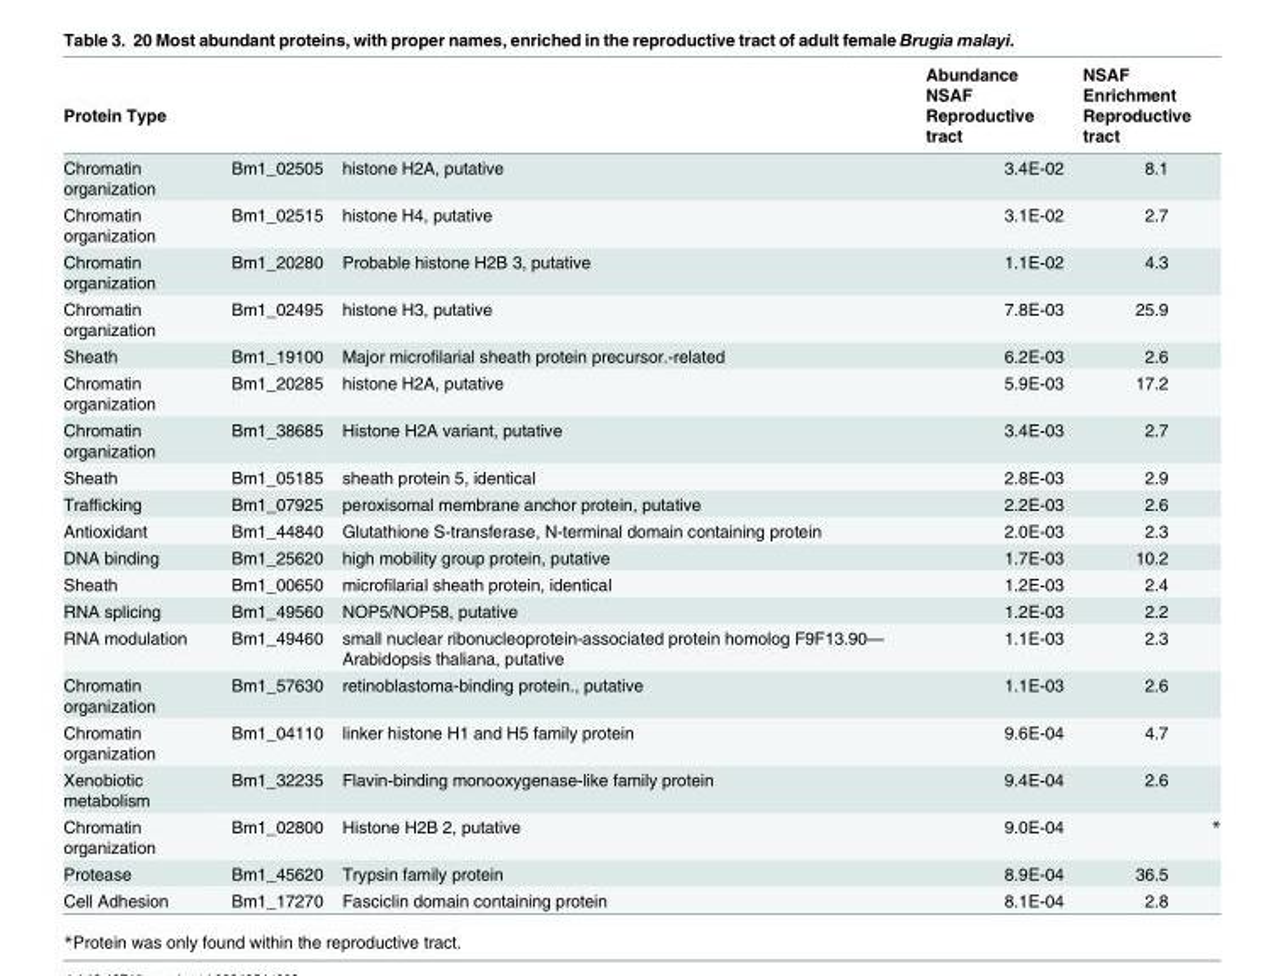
<table><thead><tr><td rowspan="2">Protein Type</td><td rowspan="2"></td><td rowspan="2"></td><td rowspan="2">Abundance NSAF Reproductive tract</td><td rowspan="2">NSAF Enrichment Reproductive tract</td></tr><tr></tr></thead><tbody><tr><td>Chromatin organization</td><td>Bm1_02505</td><td>histone H2A, putative</td><td>3.4E-02</td><td>8.1</td></tr><tr><td>Chromatin organization</td><td>Bm1_02515</td><td>histone H4, putative</td><td>3.1E-02</td><td>2.7</td></tr><tr><td>Chromatin organization</td><td>Bm1_20280</td><td>Probable histone H2B 3, putative</td><td>1.1E-02</td><td>4.3</td></tr><tr><td>Chromatin organization</td><td>Bm1_02495</td><td>histone H3, putative</td><td>7.8E-03</td><td>25.9</td></tr><tr><td>Sheath</td><td>Bm1_19100</td><td>Major microfilarial sheath protein precursor.-related</td><td>6.2E-03</td><td>2.6</td></tr><tr><td>Chromatin organization</td><td>Bm1_20285</td><td>histone H2A, putative</td><td>5.9E-03</td><td>17.2</td></tr><tr><td>Chromatin organization</td><td>Bm1_38685</td><td>Histone H2A variant, putative</td><td>3.4E-03</td><td>2.7</td></tr><tr><td>Sheath</td><td>Bm1_05185</td><td>sheath protein 5, identical</td><td>2.8E-03</td><td>2.9</td></tr><tr><td>Trafficking</td><td>Bm1_07925</td><td>peroxisomal membrane anchor protein, putative</td><td>2.2E-03</td><td>2.6</td></tr><tr><td>Antioxidant</td><td>Bm1_44840</td><td>Glutathione S-transferase, N-terminal domain containing protein</td><td>2.0E-03</td><td>2.3</td></tr><tr><td>DNA binding</td><td>Bm1_25620</td><td>high mobility group protein, putative</td><td>1.7E-03</td><td>10.2</td></tr><tr><td>Sheath</td><td>Bm1_00650</td><td>microfilarial sheath protein, identical</td><td>1.2E-03</td><td>2.4</td></tr><tr><td>RNA splicing</td><td>Bm1_49560</td><td>NOP5/NOP58, putative</td><td>1.2E-03</td><td>2.2</td></tr><tr><td>RNA modulation</td><td>Bm1_49460</td><td>small nuclear ribonucleoprotein-associated protein homolog F9F13.90— Arabidopsis thaliana, putative</td><td>1.1E-03</td><td>2.3</td></tr><tr><td>Chromatin organization</td><td>Bm1_57630</td><td>retinoblastoma-binding protein., putative</td><td>1.1E-03</td><td>2.6</td></tr><tr><td>Chromatin organization</td><td>Bm1_04110</td><td>linker histone H1 and H5 family protein</td><td>9.6E-04</td><td>4.7</td></tr><tr><td>Xenobiotic metabolism</td><td>Bm1_32235</td><td>Flavin-binding monooxygenase-like family protein</td><td>9.4E-04</td><td>2.6</td></tr><tr><td>Chromatin organization</td><td>Bm1_02800</td><td>Histone H2B 2, putative</td><td>9.0E-04</td><td>*</td></tr><tr><td>Protease</td><td>Bm1_45620</td><td>Trypsin family protein</td><td>8.9E-04</td><td>36.5</td></tr><tr><td>Cell Adhesion</td><td>Bm1_17270</td><td>Fasciclin domain containing protein</td><td>8.1E-04</td><td>2.8</td></tr></tbody></table>